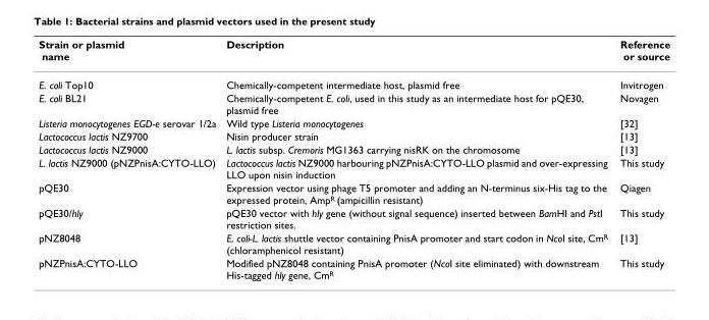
<table><thead><tr><td>Strain or plasmid name</td><td>Description</td><td>Reference or source</td></tr></thead><tbody><tr><td>E. coli Top10</td><td>Chemically-competent intermediate host, plasmid free</td><td>Invitrogen</td></tr><tr><td>E. coli BL21</td><td>Chemically-competent E. coli, used in this study as an intermediate host for pQE30, plasmid free</td><td>Novagen</td></tr><tr><td>Listeria monocytogenes EGD-e serovar 1/2a</td><td>Wild type Listeria monocytogenes</td><td>[32]</td></tr><tr><td>Lactococcus lactis NZ9700</td><td>Nisin producer strain</td><td>[13]</td></tr><tr><td>Lactococcus lactis NZ9000</td><td>L. lactis subsp. Cremoris MG1363 carrying nisRK on the chromosome</td><td>[13]</td></tr><tr><td>L. lactis NZ9000 (pNZPnisA:CYTO-LLO)</td><td>Lactococcus lactis NZ9000 harbouring pNZPnisA:CYTO-LLO plasmid and over-expressing LLO upon nisin induction</td><td>This study</td></tr><tr><td>pQE30</td><td>Expression vector using phage T5 promoter and adding an N-terminus six-His tag to the expressed protein, Amp<sup>R</sup> (ampicillin resistant)</td><td>Qiagen</td></tr><tr><td>pQE30/hly</td><td>pQE30 vector with hly gene (without signal sequence) inserted between BamHI and PstI restriction sites.</td><td>This study</td></tr><tr><td>pNZ8048</td><td>E. coli-L. lactis shuttle vector containing PnisA promoter and start codon in NcoI site, Cm<sup>R</sup> (chloramphenicol resistant)</td><td>[13]</td></tr><tr><td>pNZPnisA:CYTO-LLO</td><td>Modified pNZ8048 containing PnisA promoter (NcoI site eliminated) with downstream His-tagged hly gene, Cm<sup>R</sup></td><td>This study</td></tr></tbody></table>